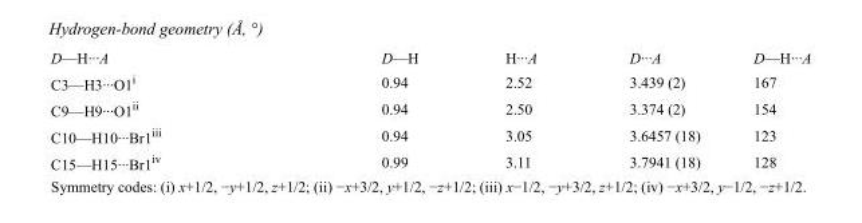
<table><tbody><tr><td>D—H···A</td><td>D—H</td><td>H···A</td><td>D···A</td><td>D—H···A</td></tr><tr><td>C3—H3···O1<sup>i</sup></td><td>0.94</td><td>2.52</td><td>3.439 (2)</td><td>167</td></tr><tr><td>C9—H9···O1<sup>ii</sup></td><td>0.94</td><td>2.50</td><td>3.374 (2)</td><td>154</td></tr><tr><td>C10—H10···Br1<sup>iii</sup></td><td>0.94</td><td>3.05</td><td>3.6457 (18)</td><td>123</td></tr><tr><td>C15—H15···Br1<sup>iv</sup></td><td>0.99</td><td>3.11</td><td>3.7941 (18)</td><td>128</td></tr></tbody></table>